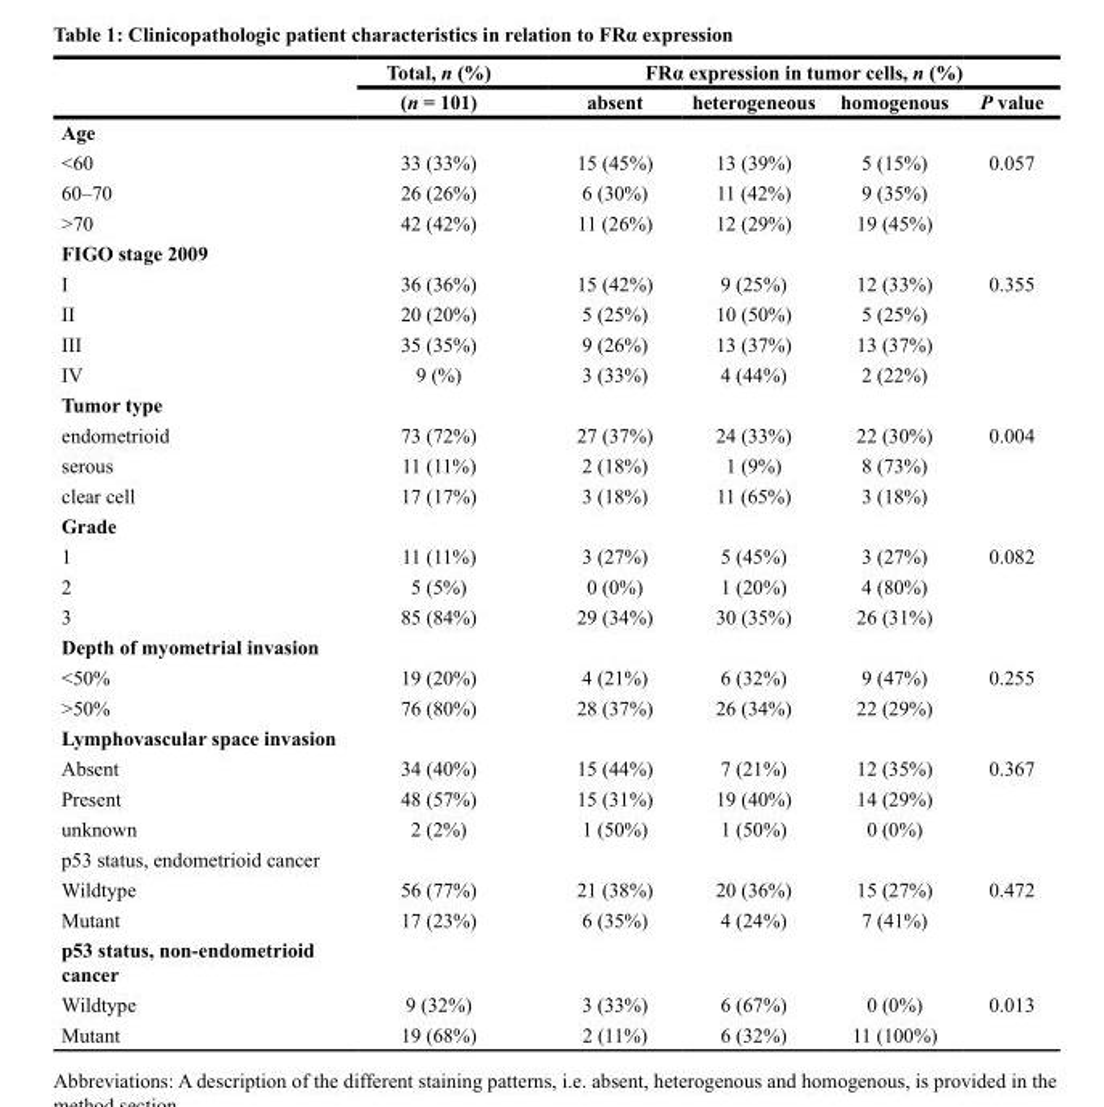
<table><thead><tr><td rowspan="2"></td><td rowspan="2">Total, n (%) (n = 101)</td><td colspan="4">FRα expression in tumor cells, n (%)</td></tr><tr><td>absent</td><td>heterogeneous</td><td>homogenous</td><td>P value</td></tr></thead><tbody><tr><td colspan="6">Age</td></tr><tr><td>&lt;60</td><td>33 (33%)</td><td>15 (45%)</td><td>13 (39%)</td><td>5 (15%)</td><td>0.057</td></tr><tr><td>60–70</td><td>26 (26%)</td><td>6 (30%)</td><td>11 (42%)</td><td>9 (35%)</td><td></td></tr><tr><td>&gt;70</td><td>42 (42%)</td><td>11 (26%)</td><td>12 (29%)</td><td>19 (45%)</td><td></td></tr><tr><td colspan="6">FIGO stage 2009</td></tr><tr><td>I</td><td>36 (36%)</td><td>15 (42%)</td><td>9 (25%)</td><td>12 (33%)</td><td>0.355</td></tr><tr><td>II</td><td>20 (20%)</td><td>5 (25%)</td><td>10 (50%)</td><td>5 (25%)</td><td></td></tr><tr><td>III</td><td>35 (35%)</td><td>9 (26%)</td><td>13 (37%)</td><td>13 (37%)</td><td></td></tr><tr><td>IV</td><td>9 (%)</td><td>3 (33%)</td><td>4 (44%)</td><td>2 (22%)</td><td></td></tr><tr><td colspan="6">Tumor type</td></tr><tr><td>endometrioid</td><td>73 (72%)</td><td>27 (37%)</td><td>24 (33%)</td><td>22 (30%)</td><td>0.004</td></tr><tr><td>serous</td><td>11 (11%)</td><td>2 (18%)</td><td>1 (9%)</td><td>8 (73%)</td><td></td></tr><tr><td>clear cell</td><td>17 (17%)</td><td>3 (18%)</td><td>11 (65%)</td><td>3 (18%)</td><td></td></tr><tr><td colspan="6">Grade</td></tr><tr><td>1</td><td>11 (11%)</td><td>3 (27%)</td><td>5 (45%)</td><td>3 (27%)</td><td>0.082</td></tr><tr><td>2</td><td>5 (5%)</td><td>0 (0%)</td><td>1 (20%)</td><td>4 (80%)</td><td></td></tr><tr><td>3</td><td>85 (84%)</td><td>29 (34%)</td><td>30 (35%)</td><td>26 (31%)</td><td></td></tr><tr><td colspan="6">Depth of myometrial invasion</td></tr><tr><td>&lt;50%</td><td>19 (20%)</td><td>4 (21%)</td><td>6 (32%)</td><td>9 (47%)</td><td>0.255</td></tr><tr><td>&gt;50%</td><td>76 (80%)</td><td>28 (37%)</td><td>26 (34%)</td><td>22 (29%)</td><td></td></tr><tr><td colspan="6">Lymphovascular space invasion</td></tr><tr><td>Absent</td><td>34 (40%)</td><td>15 (44%)</td><td>7 (21%)</td><td>12 (35%)</td><td>0.367</td></tr><tr><td>Present</td><td>48 (57%)</td><td>15 (31%)</td><td>19 (40%)</td><td>14 (29%)</td><td></td></tr><tr><td>unknown</td><td>2 (2%)</td><td>1 (50%)</td><td>1 (50%)</td><td>0 (0%)</td><td></td></tr><tr><td colspan="6">p53 status, endometrioid cancer</td></tr><tr><td>Wildtype</td><td>56 (77%)</td><td>21 (38%)</td><td>20 (36%)</td><td>15 (27%)</td><td>0.472</td></tr><tr><td>Mutant</td><td>17 (23%)</td><td>6 (35%)</td><td>4 (24%)</td><td>7 (41%)</td><td></td></tr><tr><td colspan="6">p53 status, non-endometrioid cancer</td></tr><tr><td>Wildtype</td><td>9 (32%)</td><td>3 (33%)</td><td>6 (67%)</td><td>0 (0%)</td><td>0.013</td></tr><tr><td>Mutant</td><td>19 (68%)</td><td>2 (11%)</td><td>6 (32%)</td><td>11 (100%)</td><td></td></tr></tbody></table>